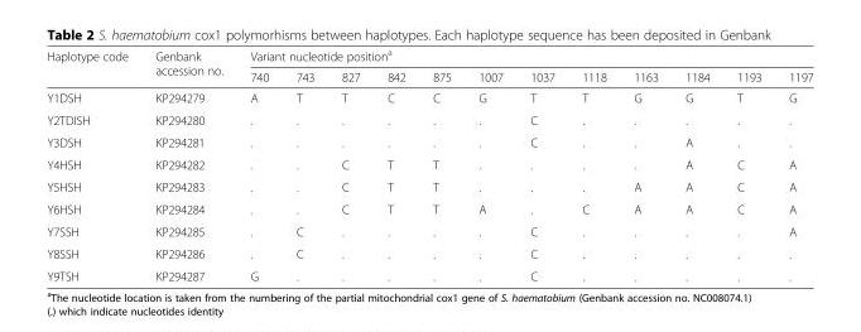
<table><thead><tr><td rowspan="2">Haplotype code</td><td rowspan="2">Genbank accession no.</td><td colspan="12">Variant nucleotide position<sup>a</sup></td></tr><tr><td>740</td><td>743</td><td>827</td><td>842</td><td>875</td><td>1007</td><td>1037</td><td>1118</td><td>1163</td><td>1184</td><td>1193</td><td>1197</td></tr></thead><tbody><tr><td>Y1DSH</td><td>KP294279</td><td>A</td><td>T</td><td>T</td><td>C</td><td>C</td><td>G</td><td>T</td><td>T</td><td>G</td><td>G</td><td>T</td><td>G</td></tr><tr><td>Y2TDISH</td><td>KP294280</td><td>.</td><td>.</td><td>.</td><td>.</td><td>.</td><td>.</td><td>C</td><td>.</td><td>.</td><td>.</td><td>.</td><td>.</td></tr><tr><td>Y3DSH</td><td>KP294281</td><td>.</td><td>.</td><td>.</td><td>.</td><td>.</td><td>.</td><td>C</td><td>.</td><td>.</td><td>A</td><td>.</td><td>.</td></tr><tr><td>Y4HSH</td><td>KP294282</td><td>.</td><td>.</td><td>C</td><td>T</td><td>T</td><td>.</td><td>.</td><td>.</td><td>.</td><td>A</td><td>C</td><td>A</td></tr><tr><td>Y5HSH</td><td>KP294283</td><td>.</td><td>.</td><td>C</td><td>T</td><td>T</td><td>.</td><td>.</td><td>.</td><td>A</td><td>A</td><td>C</td><td>A</td></tr><tr><td>Y6HSH</td><td>KP294284</td><td>.</td><td>.</td><td>C</td><td>T</td><td>T</td><td>A</td><td>.</td><td>C</td><td>A</td><td>A</td><td>C</td><td>A</td></tr><tr><td>Y7SSH</td><td>KP294285</td><td>.</td><td>C</td><td>.</td><td>.</td><td>.</td><td>.</td><td>C</td><td>.</td><td>.</td><td>.</td><td>.</td><td>A</td></tr><tr><td>Y8SSH</td><td>KP294286</td><td>.</td><td>C</td><td>.</td><td>.</td><td>.</td><td>.</td><td>C</td><td>.</td><td>.</td><td>.</td><td>.</td><td>.</td></tr><tr><td>Y9TSH</td><td>KP294287</td><td>G</td><td>.</td><td>.</td><td>.</td><td>.</td><td>.</td><td>C</td><td>.</td><td>.</td><td>.</td><td>.</td><td>.</td></tr></tbody></table>